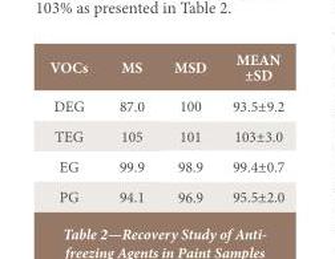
<table><thead><tr><td>VOCs</td><td>MS</td><td>MSD</td><td>MEAN ±SD</td></tr></thead><tbody><tr><td>DEG</td><td>87.0</td><td>100</td><td>93.5±9.2</td></tr><tr><td>TEG</td><td>105</td><td>101</td><td>103±3.0</td></tr><tr><td>EG</td><td>99.9</td><td>98.9</td><td>99.4±0.7</td></tr><tr><td>PG</td><td>94.1</td><td>96.9</td><td>95.5±2.0</td></tr></tbody></table>